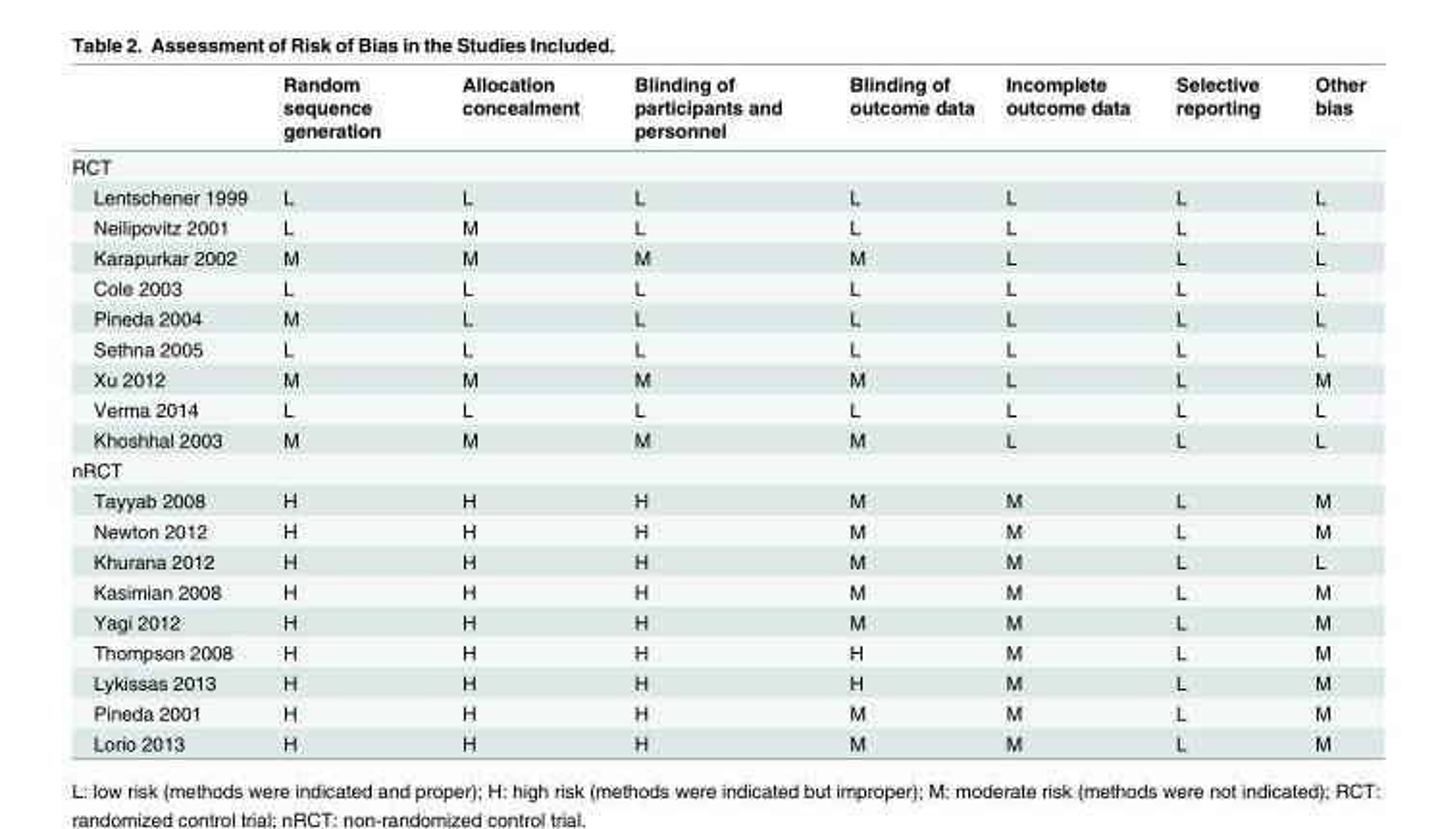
<table><thead><tr><td></td><td>Random sequence generation</td><td>Allocation concealment</td><td>Blinding of participants and personnel</td><td>Blinding of outcome data</td><td>Incomplete outcome data</td><td>Selective reporting</td><td>Other bias</td></tr></thead><tbody><tr><td colspan="8">RCT</td></tr><tr><td>Lentschener 1999</td><td>L</td><td>L</td><td>L</td><td>L</td><td>L</td><td>L</td><td>L</td></tr><tr><td>Neilipovitz 2001</td><td>L</td><td>M</td><td>L</td><td>L</td><td>L</td><td>L</td><td>L</td></tr><tr><td>Karapurkar 2002</td><td>M</td><td>M</td><td>M</td><td>M</td><td>L</td><td>L</td><td>L</td></tr><tr><td>Cole 2003</td><td>L</td><td>L</td><td>L</td><td>L</td><td>L</td><td>L</td><td>L</td></tr><tr><td>Pineda 2004</td><td>M</td><td>L</td><td>L</td><td>L</td><td>L</td><td>L</td><td>L</td></tr><tr><td>Sethna 2005</td><td>L</td><td>L</td><td>L</td><td>L</td><td>L</td><td>L</td><td>L</td></tr><tr><td>Xu 2012</td><td>M</td><td>M</td><td>M</td><td>M</td><td>L</td><td>L</td><td>M</td></tr><tr><td>Verma 2014</td><td>L</td><td>L</td><td>L</td><td>L</td><td>L</td><td>L</td><td>L</td></tr><tr><td>Khoshhal 2003</td><td>M</td><td>M</td><td>M</td><td>M</td><td>L</td><td>L</td><td>L</td></tr><tr><td colspan="8">nRCT</td></tr><tr><td>Tayyab 2008</td><td>H</td><td>H</td><td>H</td><td>M</td><td>M</td><td>L</td><td>M</td></tr><tr><td>Newton 2012</td><td>H</td><td>H</td><td>H</td><td>M</td><td>M</td><td>L</td><td>M</td></tr><tr><td>Khurana 2012</td><td>H</td><td>H</td><td>H</td><td>M</td><td>M</td><td>L</td><td>L</td></tr><tr><td>Kasimian 2008</td><td>H</td><td>H</td><td>H</td><td>M</td><td>M</td><td>L</td><td>M</td></tr><tr><td>Yagi 2012</td><td>H</td><td>H</td><td>H</td><td>M</td><td>M</td><td>L</td><td>M</td></tr><tr><td>Thompson 2008</td><td>H</td><td>H</td><td>H</td><td>H</td><td>M</td><td>L</td><td>M</td></tr><tr><td>Lykissas 2013</td><td>H</td><td>H</td><td>H</td><td>H</td><td>M</td><td>L</td><td>M</td></tr><tr><td>Pineda 2001</td><td>H</td><td>H</td><td>H</td><td>M</td><td>M</td><td>L</td><td>M</td></tr><tr><td>Lorio 2013</td><td>H</td><td>H</td><td>H</td><td>M</td><td>M</td><td>L</td><td>M</td></tr></tbody></table>